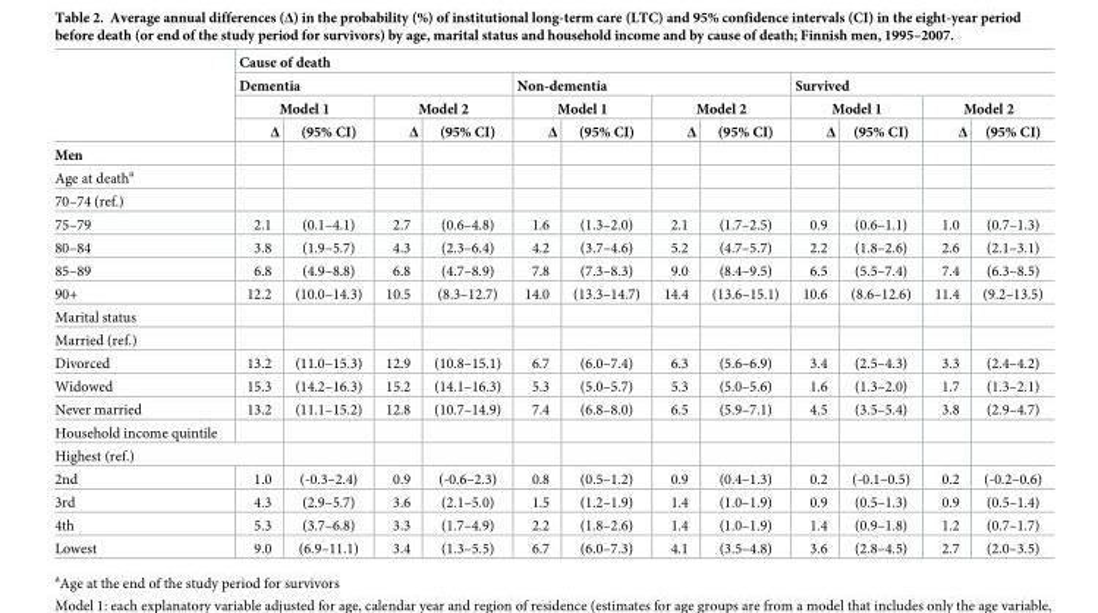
<table><thead><tr><td rowspan="5">Men</td><td colspan="12">Cause of death</td></tr><tr><td colspan="4">Dementia</td><td colspan="4">Non-dementia</td><td colspan="4">Survived</td></tr><tr><td colspan="2">Model 1</td><td colspan="2">Model 2</td><td colspan="2">Model 1</td><td colspan="2">Model 2</td><td colspan="2">Model 1</td><td colspan="2">Model 2</td></tr><tr><td rowspan="2">Δ</td><td rowspan="2">(95% CI)</td><td rowspan="2">Δ</td><td rowspan="2">(95% CI)</td><td rowspan="2">Δ</td><td rowspan="2">(95% CI)</td><td rowspan="2">Δ</td><td rowspan="2">(95% CI)</td><td rowspan="2">Δ</td><td rowspan="2">(95% CI)</td><td rowspan="2">Δ</td><td rowspan="2">(95% CI)</td></tr><tr></tr></thead><tbody><tr><td colspan="13">Age at death<sup>a</sup></td></tr><tr><td colspan="13">70–74 (ref.)</td></tr><tr><td>75–79</td><td>2.1</td><td>(0.1–4.1)</td><td>2.7</td><td>(0.6–4.8)</td><td>1.6</td><td>(1.3–2.0)</td><td>2.1</td><td>(1.7–2.5)</td><td>0.9</td><td>(0.6–1.1)</td><td>1.0</td><td>(0.7–1.3)</td></tr><tr><td>80–84</td><td>3.8</td><td>(1.9–5.7)</td><td>4.3</td><td>(2.3–6.4)</td><td>4.2</td><td>(3.7–4.6)</td><td>5.2</td><td>(4.7–5.7)</td><td>2.2</td><td>(1.8–2.6)</td><td>2.6</td><td>(2.1–3.1)</td></tr><tr><td>85–89</td><td>6.8</td><td>(4.9–8.8)</td><td>6.8</td><td>(4.7–8.9)</td><td>7.8</td><td>(7.3–8.3)</td><td>9.0</td><td>(8.4–9.5)</td><td>6.5</td><td>(5.5–7.4)</td><td>7.4</td><td>(6.3–8.5)</td></tr><tr><td>90+</td><td>12.2</td><td>(10.0–14.3)</td><td>10.5</td><td>(8.3–12.7)</td><td>14.0</td><td>(13.3–14.7)</td><td>14.4</td><td>(13.6–15.1)</td><td>10.6</td><td>(8.6–12.6)</td><td>11.4</td><td>(9.2–13.5)</td></tr><tr><td colspan="13">Marital status</td></tr><tr><td colspan="13">Married (ref.)</td></tr><tr><td>Divorced</td><td>13.2</td><td>(11.0–15.3)</td><td>12.9</td><td>(10.8–15.1)</td><td>6.7</td><td>(6.0–7.4)</td><td>6.3</td><td>(5.6–6.9)</td><td>3.4</td><td>(2.5–4.3)</td><td>3.3</td><td>(2.4–4.2)</td></tr><tr><td>Widowed</td><td>15.3</td><td>(14.2–16.3)</td><td>15.2</td><td>(14.1–16.3)</td><td>5.3</td><td>(5.0–5.7)</td><td>5.3</td><td>(5.0–5.6)</td><td>1.6</td><td>(1.3–2.0)</td><td>1.7</td><td>(1.3–2.1)</td></tr><tr><td>Never married</td><td>13.2</td><td>(11.1–15.2)</td><td>12.8</td><td>(10.7–14.9)</td><td>7.4</td><td>(6.8–8.0)</td><td>6.5</td><td>(5.9–7.1)</td><td>4.5</td><td>(3.5–5.4)</td><td>3.8</td><td>(2.9–4.7)</td></tr><tr><td colspan="13">Household income quintile</td></tr><tr><td colspan="13">Highest (ref.)</td></tr><tr><td>2nd</td><td>1.0</td><td>(-0.3–2.4)</td><td>0.9</td><td>(-0.6–2.3)</td><td>0.8</td><td>(0.5–1.2)</td><td>0.9</td><td>(0.4–1.3)</td><td>0.2</td><td>(-0.1–0.5)</td><td>0.2</td><td>(-0.2–0.6)</td></tr><tr><td>3rd</td><td>4.3</td><td>(2.9–5.7)</td><td>3.6</td><td>(2.1–5.0)</td><td>1.5</td><td>(1.2–1.9)</td><td>1.4</td><td>(1.0–1.9)</td><td>0.9</td><td>(0.5–1.3)</td><td>0.9</td><td>(0.5–1.4)</td></tr><tr><td>4th</td><td>5.3</td><td>(3.7–6.8)</td><td>3.3</td><td>(1.7–4.9)</td><td>2.2</td><td>(1.8–2.6)</td><td>1.4</td><td>(1.0–1.9)</td><td>1.4</td><td>(0.9–1.8)</td><td>1.2</td><td>(0.7–1.7)</td></tr><tr><td>Lowest</td><td>9.0</td><td>(6.9–11.1)</td><td>3.4</td><td>(1.3–5.5)</td><td>6.7</td><td>(6.0–7.3)</td><td>4.1</td><td>(3.5–4.8)</td><td>3.6</td><td>(2.8–4.5)</td><td>2.7</td><td>(2.0–3.5)</td></tr></tbody></table>